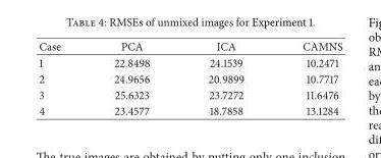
<table><thead><tr><td>Case</td><td>PCA</td><td>ICA</td><td>CAMNS</td></tr></thead><tbody><tr><td>1</td><td>22.8498</td><td>24.1539</td><td>10.2471</td></tr><tr><td>2</td><td>24.9656</td><td>20.9899</td><td>10.7717</td></tr><tr><td>3</td><td>25.6323</td><td>23.7272</td><td>11.6476</td></tr><tr><td>4</td><td>23.4577</td><td>18.7858</td><td>13.1284</td></tr></tbody></table>